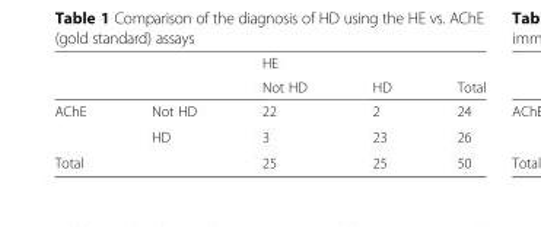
<table><thead><tr><td rowspan="2"></td><td rowspan="2"></td><td rowspan="2">HE Not HD</td><td rowspan="2">HD</td><td rowspan="2">Total</td></tr><tr></tr></thead><tbody><tr><td rowspan="2">AChE</td><td>Not HD</td><td>22</td><td>2</td><td>24</td></tr><tr><td>HD</td><td>3</td><td>23</td><td>26</td></tr><tr><td>Total</td><td></td><td>25</td><td>25</td><td>50</td></tr></tbody></table>